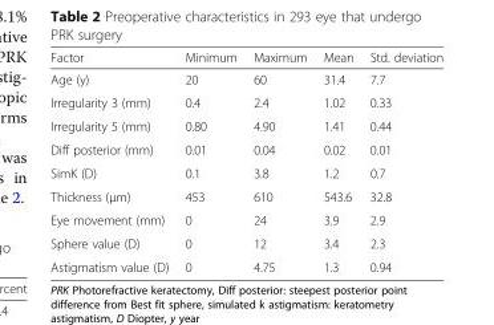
<table><thead><tr><td>Factor</td><td>Minimum</td><td>Maximum</td><td>Mean</td><td>Std. deviation</td></tr></thead><tbody><tr><td>Age (y)</td><td>20</td><td>60</td><td>31.4</td><td>7.7</td></tr><tr><td>Irregularity 3 (mm)</td><td>0.4</td><td>2.4</td><td>1.02</td><td>0.33</td></tr><tr><td>Irregularity 5 (mm)</td><td>0.80</td><td>4.90</td><td>1.41</td><td>0.44</td></tr><tr><td>Diff posterior (mm)</td><td>0.01</td><td>0.04</td><td>0.02</td><td>0.01</td></tr><tr><td>SimK (D)</td><td>0.1</td><td>3.8</td><td>1.2</td><td>0.7</td></tr><tr><td>Thickness (μm)</td><td>453</td><td>610</td><td>543.6</td><td>32.8</td></tr><tr><td>Eye movement (mm)</td><td>0</td><td>24</td><td>3.9</td><td>2.9</td></tr><tr><td>Sphere value (D)</td><td>0</td><td>12</td><td>3.4</td><td>2.3</td></tr><tr><td>Astigmatism value (D)</td><td>0</td><td>4.75</td><td>1.3</td><td>0.94</td></tr></tbody></table>